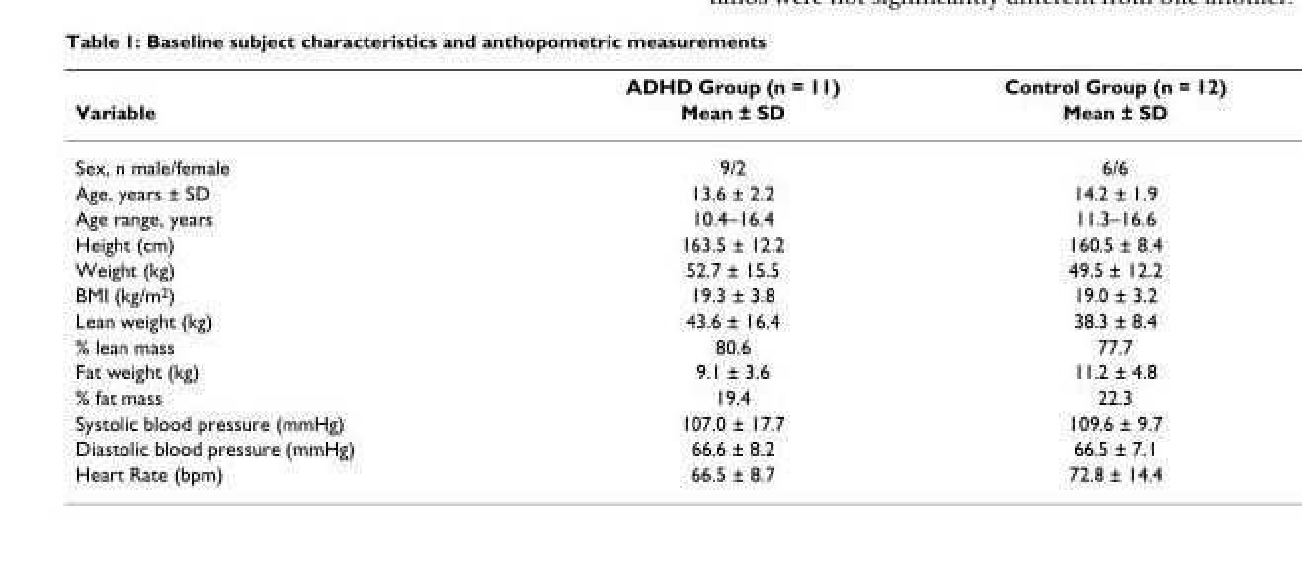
<table><thead><tr><td rowspan="2">Variable</td><td rowspan="2">ADHD Group (n = 11) Mean ± SD</td><td rowspan="2">Control Group (n = 12) Mean ± SD</td></tr><tr></tr></thead><tbody><tr><td>Sex, n male/female</td><td>9/2</td><td>6/6</td></tr><tr><td>Age, years ± SD</td><td>13.6 ± 2.2</td><td>14.2 ± 1.9</td></tr><tr><td>Age range, years</td><td>10.4–16.4</td><td>11.3–16.6</td></tr><tr><td>Height (cm)</td><td>163.5 ± 12.2</td><td>160.5 ± 8.4</td></tr><tr><td>Weight (kg)</td><td>52.7 ± 15.5</td><td>49.5 ± 12.2</td></tr><tr><td>BMI (kg/m<sup>2</sup>)</td><td>19.3 ± 3.8</td><td>19.0 ± 3.2</td></tr><tr><td>Lean weight (kg)</td><td>43.6 ± 16.4</td><td>38.3 ± 8.4</td></tr><tr><td>% lean mass</td><td>80.6</td><td>77.7</td></tr><tr><td>Fat weight (kg)</td><td>9.1 ± 3.6</td><td>11.2 ± 4.8</td></tr><tr><td>% fat mass</td><td>19.4</td><td>22.3</td></tr><tr><td>Systolic blood pressure (mmHg)</td><td>107.0 ± 17.7</td><td>109.6 ± 9.7</td></tr><tr><td>Diastolic blood pressure (mmHg)</td><td>66.6 ± 8.2</td><td>66.5 ± 7.1</td></tr><tr><td>Heart Rate (bpm)</td><td>66.5 ± 8.7</td><td>72.8 ± 14.4</td></tr></tbody></table>